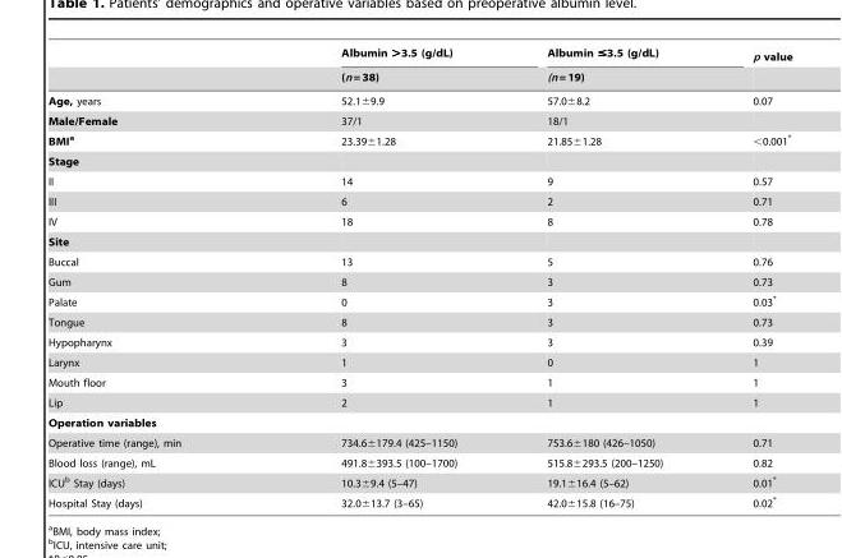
<table><thead><tr><td rowspan="2"></td><td rowspan="2">Albumin &gt;3.5 (g/dL) (n = 38)</td><td rowspan="2">Albumin ≤3.5 (g/dL) (n = 19)</td><td rowspan="2">p value</td></tr><tr></tr></thead><tbody><tr><td>Age, years</td><td>52.1±9.9</td><td>57.0±8.2</td><td>0.07</td></tr><tr><td>Male/Female</td><td>37/1</td><td>18/1</td><td></td></tr><tr><td>BMIa</td><td>23.39±1.28</td><td>21.85±1.28</td><td>&lt;0.001*</td></tr><tr><td colspan="4">Stage</td></tr><tr><td>II</td><td>14</td><td>9</td><td>0.57</td></tr><tr><td>III</td><td>6</td><td>2</td><td>0.71</td></tr><tr><td>IV</td><td>18</td><td>8</td><td>0.78</td></tr><tr><td colspan="4">Site</td></tr><tr><td>Buccal</td><td>13</td><td>5</td><td>0.76</td></tr><tr><td>Gum</td><td>8</td><td>3</td><td>0.73</td></tr><tr><td>Palate</td><td>0</td><td>3</td><td>0.03*</td></tr><tr><td>Tongue</td><td>8</td><td>3</td><td>0.73</td></tr><tr><td>Hypopharynx</td><td>3</td><td>3</td><td>0.39</td></tr><tr><td>Larynx</td><td>1</td><td>0</td><td>1</td></tr><tr><td>Mouth floor</td><td>3</td><td>1</td><td>1</td></tr><tr><td>Lip</td><td>2</td><td>1</td><td>1</td></tr><tr><td colspan="4">Operation variables</td></tr><tr><td>Operative time (range), min</td><td>734.6±179.4 (425–1150)</td><td>753.6±180 (426–1050)</td><td>0.71</td></tr><tr><td>Blood loss (range), mL</td><td>491.8±393.5 (100–1700)</td><td>515.8±293.5 (200–1250)</td><td>0.82</td></tr><tr><td>ICU<sup>b</sup> Stay (days)</td><td>10.3±9.4 (5–47)</td><td>19.1±16.4 (5–62)</td><td>0.01*</td></tr><tr><td>Hospital Stay (days)</td><td>32.0±13.7 (3–65)</td><td>42.0±15.8 (16–75)</td><td>0.02*</td></tr></tbody></table>